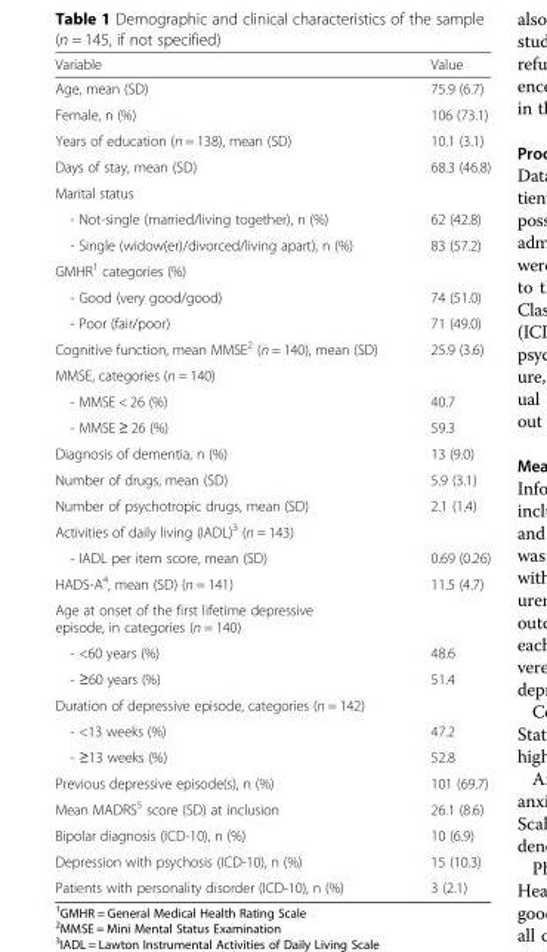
<table><thead><tr><td>Variable</td><td>Value</td></tr></thead><tbody><tr><td>Age, mean (SD)</td><td>75.9 (6.7)</td></tr><tr><td>Female, n (%)</td><td>106 (73.1)</td></tr><tr><td>Years of education (n = 138), mean (SD)</td><td>10.1 (3.1)</td></tr><tr><td>Days of stay, mean (SD)</td><td>68.3 (46.8)</td></tr><tr><td colspan="2">Marital status</td></tr><tr><td>- Not-single (married/living together), n (%)</td><td>62 (42.8)</td></tr><tr><td>- Single (widow(er)/divorced/living apart), n (%)</td><td>83 (57.2)</td></tr><tr><td colspan="2">GMHR<sup>1</sup> categories (%)</td></tr><tr><td>- Good (very good/good)</td><td>74 (51.0)</td></tr><tr><td>- Poor (fair/poor)</td><td>71 (49.0)</td></tr><tr><td>Cognitive function, mean MMSE<sup>2</sup> (n = 140), mean (SD)</td><td>25.9 (3.6)</td></tr><tr><td colspan="2">MMSE, categories (n = 140)</td></tr><tr><td>- MMSE &lt; 26 (%)</td><td>40.7</td></tr><tr><td>- MMSE ≥ 26 (%)</td><td>59.3</td></tr><tr><td>Diagnosis of dementia, n (%)</td><td>13 (9.0)</td></tr><tr><td>Number of drugs, mean (SD)</td><td>5.9 (3.1)</td></tr><tr><td>Number of psychotropic drugs, mean (SD)</td><td>2.1 (1.4)</td></tr><tr><td colspan="2">Activities of daily living (IADL)<sup>3</sup> (n = 143)</td></tr><tr><td>- IADL per item score, mean (SD)</td><td>0.69 (0.26)</td></tr><tr><td>HADS-A<sup>4</sup>, mean (SD) (n = 141)</td><td>11.5 (4.7)</td></tr><tr><td colspan="2">Age at onset of the first lifetime depressive episode, in categories (n = 140)</td></tr><tr><td>- &lt;60 years (%)</td><td>48.6</td></tr><tr><td>- ≥60 years (%)</td><td>51.4</td></tr><tr><td colspan="2">Duration of depressive episode, categories (n = 142)</td></tr><tr><td>- &lt;13 weeks (%)</td><td>47.2</td></tr><tr><td>- ≥13 weeks (%)</td><td>52.8</td></tr><tr><td>Previous depressive episode(s), n (%)</td><td>101 (69.7)</td></tr><tr><td>Mean MADRS<sup>5</sup> score (SD) at inclusion</td><td>26.1 (8.6)</td></tr><tr><td>Bipolar diagnosis (ICD-10), n (%)</td><td>10 (6.9)</td></tr><tr><td>Depression with psychosis (ICD-10), n (%)</td><td>15 (10.3)</td></tr><tr><td>Patients with personality disorder (ICD-10), n (%)</td><td>3 (2.1)</td></tr></tbody></table>